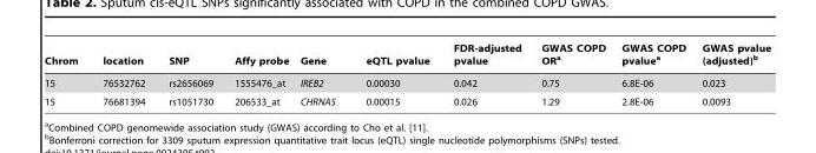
<table><thead><tr><td>Chrom</td><td>location</td><td>SNP</td><td>Affy probe</td><td>Gene</td><td>eQTL pvalue</td><td>FDR-adjusted pvalue</td><td>GWAS COPD OR<sup>a</sup></td><td>GWAS COPD pvalue<sup>a</sup></td><td>GWAS pvalue (adjusted)<sup>b</sup></td></tr></thead><tbody><tr><td>15</td><td>76532762</td><td>rs2656069</td><td>1555476_at</td><td>IREB2</td><td>0.00030</td><td>0.042</td><td>0.75</td><td>6.8E-06</td><td>0.023</td></tr><tr><td>15</td><td>76681394</td><td>rs1051730</td><td>206533_at</td><td>CHRNA5</td><td>0.00015</td><td>0.026</td><td>1.29</td><td>2.8E-06</td><td>0.0093</td></tr></tbody></table>